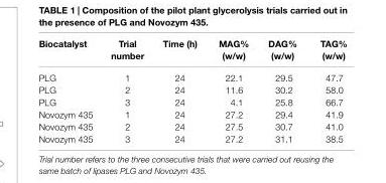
<table><thead><tr><td>Biocatalyst</td><td>Trial number</td><td>Time (h)</td><td>Mag% (w/w)</td><td>Dag% (w/w)</td><td>Tag% (w/w)</td></tr></thead><tbody><tr><td>PLG</td><td>1</td><td>24</td><td>22.1</td><td>29.5</td><td>47.7</td></tr><tr><td>PLG</td><td>2</td><td>24</td><td>11.6</td><td>30.2</td><td>58.0</td></tr><tr><td>PLG</td><td>3</td><td>24</td><td>4.1</td><td>25.8</td><td>66.7</td></tr><tr><td>Novozym 435</td><td>1</td><td>24</td><td>27.2</td><td>29.4</td><td>41.9</td></tr><tr><td>Novozym 435</td><td>2</td><td>24</td><td>27.5</td><td>30.7</td><td>41.0</td></tr><tr><td>Novozym 435</td><td>3</td><td>24</td><td>27.2</td><td>31.1</td><td>38.5</td></tr></tbody></table>